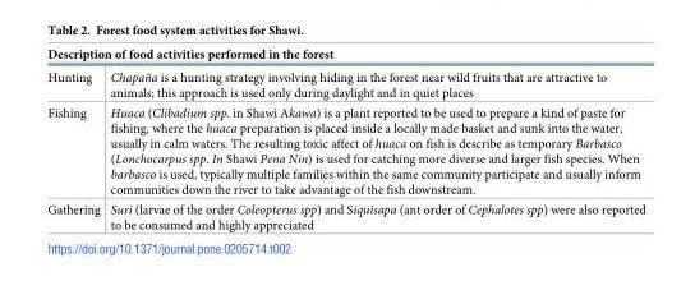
<table><thead><tr><td colspan="2">Description of food activities performed in the forest</td></tr><tr><td>Hunting</td><td>Chapaña is a hunting strategy involving hiding in the forest near wild fruits that are attractive to animals; this approach is used only during daylight and in quiet places</td></tr></thead><tbody><tr><td>Fishing</td><td>Huaca (Clibadium spp. in Shawi Akawa) is a plant reported to be used to prepare a kind of paste for fishing, where the huaca preparation is placed inside a locally made basket and sunk into the water, usually in calm waters. The resulting toxic affect of huaca on fish is describe as temporary Barbasco (Lonchocarpus spp. In Shawi Pena Nin) is used for catching more diverse and larger fish species. When barbasco is used, typically multiple families within the same community participate and usually inform communities down the river to take advantage of the fish downstream.</td></tr><tr><td>Gathering</td><td>Suri (larvae of the order Coleopterus spp) and Siquisapa (ant order of Cephalotes spp) were also reported to be consumed and highly appreciated</td></tr></tbody></table>